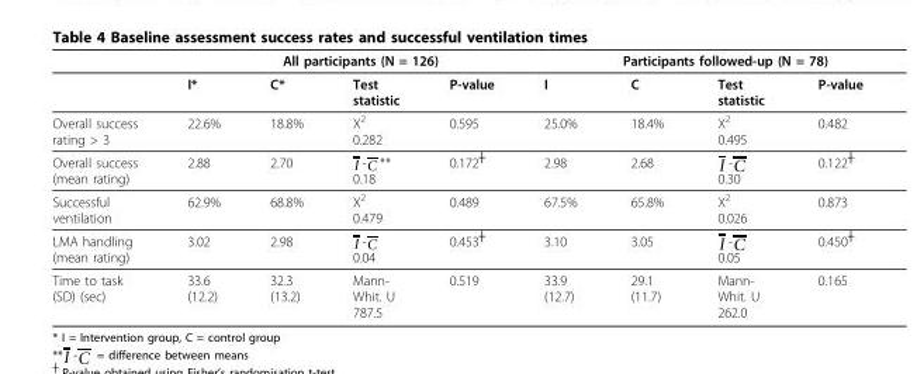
<table><thead><tr><td rowspan="2"></td><td colspan="4">All participants (N = 126)</td><td colspan="4">Participants followed-up (N = 78)</td></tr><tr><td>I*</td><td>C*</td><td>Test statistic</td><td>P-value</td><td>I</td><td>C</td><td>Test statistic</td><td>P-value</td></tr></thead><tbody><tr><td>Overall success rating &gt; 3</td><td>22.6%</td><td>18.8%</td><td>X2 0.282</td><td>0.595</td><td>25.0%</td><td>18.4%</td><td>X2 0.495</td><td>0.482</td></tr><tr><td>Overall success (mean rating)</td><td>2.88</td><td>2.70</td><td>I -C ** 0.18</td><td>0.172┼</td><td>2.98</td><td>2.68</td><td>I -C 0.30</td><td>0.122┼</td></tr><tr><td>Successful ventilation</td><td>62.9%</td><td>68.8%</td><td>X2 0.479</td><td>0.489</td><td>67.5%</td><td>65.8%</td><td>X2 0.026</td><td>0.873</td></tr><tr><td>LMA handling (mean rating)</td><td>3.02</td><td>2.98</td><td>I -C 0.04</td><td>0.453┼</td><td>3.10</td><td>3.05</td><td>I -C 0.05</td><td>0.450┼</td></tr><tr><td>Time to task (SD) (sec)</td><td>33.6 (12.2)</td><td>32.3 (13.2)</td><td>Mann- Whit. U 787.5</td><td>0.519</td><td>33.9 (12.7)</td><td>29.1 (11.7)</td><td>Mann- Whit. U 262.0</td><td>0.165</td></tr></tbody></table>